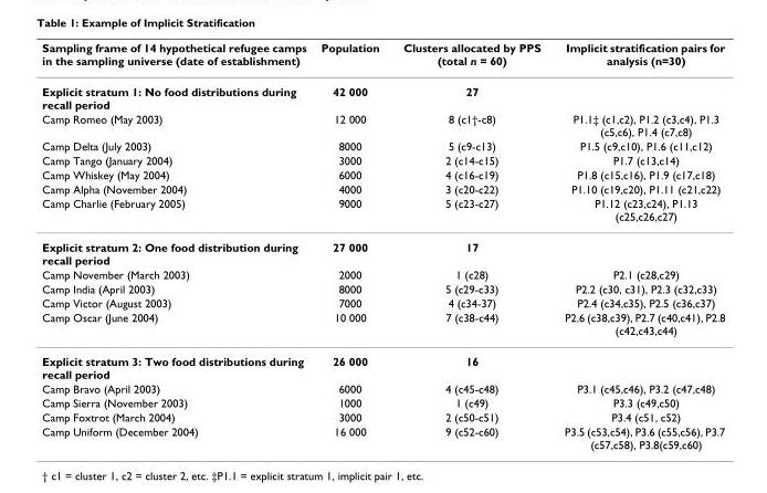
<table><thead><tr><td>Sampling frame of 14 hypothetical refugee camps in the sampling universe (date of establishment)</td><td>Population</td><td>Clusters allocated by PPS (total n = 60)</td><td>Implicit stratification pairs for analysis (n=30)</td></tr></thead><tbody><tr><td>Explicit stratum 1: No food distributions during recall period</td><td>42 000</td><td>27</td><td></td></tr><tr><td>Camp Romeo (May 2003)</td><td>12 000</td><td>8 (c1†-c8)</td><td>P1.1‡ (c1,c2), P1.2 (c3,c4), P1.3 (c5,c6), P1.4 (c7,c8)</td></tr><tr><td>Camp Delta (July 2003)</td><td>8000</td><td>5 (c9-c13)</td><td>P1.5 (c9,c10), P1.6 (c11,c12)</td></tr><tr><td>Camp Tango (January 2004)</td><td>3000</td><td>2 (c14-c15)</td><td>P1.7 (c13,c14)</td></tr><tr><td>Camp Whiskey (May 2004)</td><td>6000</td><td>4 (c16-c19)</td><td>P1.8 (c15,c16), P1.9 (c17,c18)</td></tr><tr><td>Camp Alpha (November 2004)</td><td>4000</td><td>3 (c20-c22)</td><td>P1.10 (c19,c20), P1.11 (c21,c22)</td></tr><tr><td>Camp Charlie (February 2005)</td><td>9000</td><td>5 (c23-c27)</td><td>P1.12 (c23,c24), P1.13 (c25,c26,c27)</td></tr><tr><td>Explicit stratum 2: One food distribution during recall period</td><td>27 000</td><td>17</td><td></td></tr><tr><td>Camp November (March 2003)</td><td>2000</td><td>1 (c28)</td><td>P2.1 (c28,c29)</td></tr><tr><td>Camp India (April 2003)</td><td>8000</td><td>5 (c29-c33)</td><td>P2.2 (c30, c31), P2.3 (c32,c33)</td></tr><tr><td>Camp Victor (August 2003)</td><td>7000</td><td>4 (c34-37)</td><td>P2.4 (c34,c35), P2.5 (c36,c37)</td></tr><tr><td>Camp Oscar (June 2004)</td><td>10 000</td><td>7 (c38-c44)</td><td>P2.6 (c38,c39), P2.7 (c40,c41), P2.8 (c42,c43,c44)</td></tr><tr><td>Explicit stratum 3: Two food distributions during recall period</td><td>26 000</td><td>16</td><td></td></tr><tr><td>Camp Bravo (April 2003)</td><td>6000</td><td>4 (c45-c48)</td><td>P3.1 (c45,c46), P3.2 (c47,c48)</td></tr><tr><td>Camp Sierra (November 2003)</td><td>1000</td><td>1 (c49)</td><td>P3.3 (c49,c50)</td></tr><tr><td>Camp Foxtrot (March 2004)</td><td>3000</td><td>2 (c50-c51)</td><td>P3.4 (c51, c52)</td></tr><tr><td>Camp Uniform (December 2004)</td><td>16 000</td><td>9 (c52-c60)</td><td>P3.5 (c53,c54), P3.6 (c55,c56), P3.7 (c57,c58), P3.8(c59,c60)</td></tr></tbody></table>